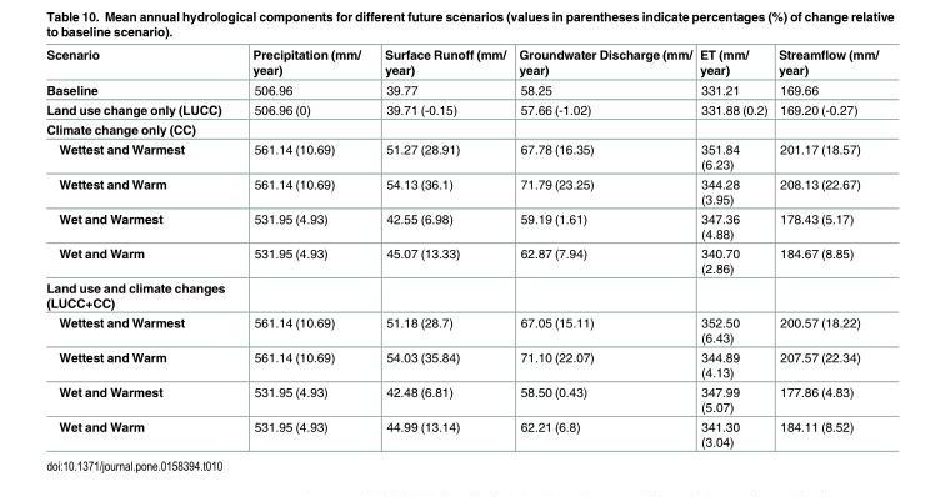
<table><thead><tr><td>Scenario</td><td>Precipitation (mm/ year)</td><td>Surface Runoff (mm/ year)</td><td>Groundwater Discharge (mm/ year)</td><td>ET (mm/ year)</td><td>Streamflow (mm/ year)</td></tr></thead><tbody><tr><td>Baseline</td><td>506.96</td><td>39.77</td><td>58.25</td><td>331.21</td><td>169.66</td></tr><tr><td>Land use change only (LUCC)</td><td>506.96 (0)</td><td>39.71 (-0.15)</td><td>57.66 (-1.02)</td><td>331.88 (0.2)</td><td>169.20 (-0.27)</td></tr><tr><td colspan="6">Climate change only (CC)</td></tr><tr><td>Wettest and Warmest</td><td>561.14 (10.69)</td><td>51.27 (28.91)</td><td>67.78 (16.35)</td><td>351.84 (6.23)</td><td>201.17 (18.57)</td></tr><tr><td>Wettest and Warm</td><td>561.14 (10.69)</td><td>54.13 (36.1)</td><td>71.79 (23.25)</td><td>344.28 (3.95)</td><td>208.13 (22.67)</td></tr><tr><td>Wet and Warmest</td><td>531.95 (4.93)</td><td>42.55 (6.98)</td><td>59.19 (1.61)</td><td>347.36 (4.88)</td><td>178.43 (5.17)</td></tr><tr><td>Wet and Warm</td><td>531.95 (4.93)</td><td>45.07 (13.33)</td><td>62.87 (7.94)</td><td>340.70 (2.86)</td><td>184.67 (8.85)</td></tr><tr><td colspan="6">Land use and climate changes (LUCC+CC)</td></tr><tr><td>Wettest and Warmest</td><td>561.14 (10.69)</td><td>51.18 (28.7)</td><td>67.05 (15.11)</td><td>352.50 (6.43)</td><td>200.57 (18.22)</td></tr><tr><td>Wettest and Warm</td><td>561.14 (10.69)</td><td>54.03 (35.84)</td><td>71.10 (22.07)</td><td>344.89 (4.13)</td><td>207.57 (22.34)</td></tr><tr><td>Wet and Warmest</td><td>531.95 (4.93)</td><td>42.48 (6.81)</td><td>58.50 (0.43)</td><td>347.99 (5.07)</td><td>177.86 (4.83)</td></tr><tr><td>Wet and Warm</td><td>531.95 (4.93)</td><td>44.99 (13.14)</td><td>62.21 (6.8)</td><td>341.30 (3.04)</td><td>184.11 (8.52)</td></tr></tbody></table>